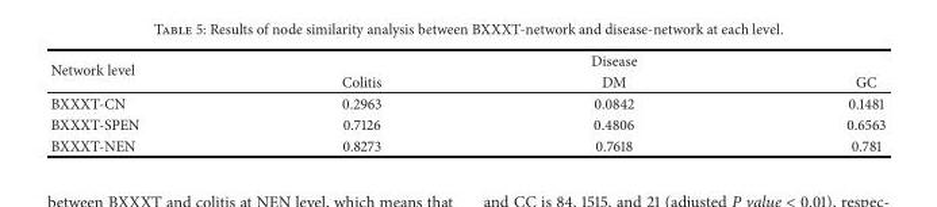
<table><thead><tr><td rowspan="2">Network level</td><td rowspan="2">Colitis</td><td rowspan="2">Disease DM</td><td rowspan="2">GC</td></tr><tr></tr></thead><tbody><tr><td>BXXXT-CN</td><td>0.2963</td><td>0.0842</td><td>0.1481</td></tr><tr><td>BXXXT-SPEN</td><td>0.7126</td><td>0.4806</td><td>0.6563</td></tr><tr><td>BXXXT-NEN</td><td>0.8273</td><td>0.7618</td><td>0.781</td></tr></tbody></table>